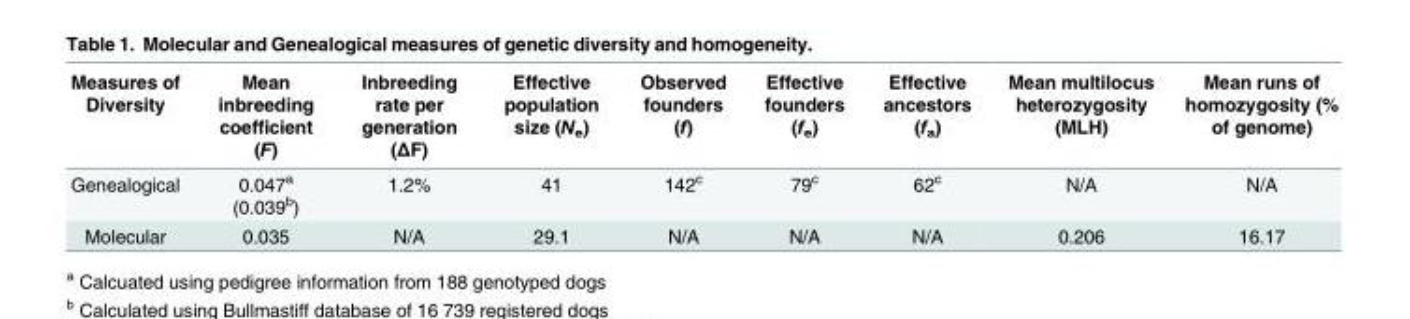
<table><thead><tr><td>Measures of Diversity</td><td>Mean inbreeding coefficient (F)</td><td>Inbreeding rate per generation (ΔF)</td><td>Effective population size (N<sub>e</sub>)</td><td>Observed founders (f)</td><td>Effective founders (f<sub>e</sub>)</td><td>Effective ancestors (f<sub>a</sub>)</td><td>Mean multilocus heterozygosity (MLH)</td><td>Mean runs of homozygosity (% of genome)</td></tr></thead><tbody><tr><td>Genealogical</td><td>0.047<sup>a</sup> (0.039<sup>b</sup>)</td><td>1.2%</td><td>41</td><td>142<sup>c</sup></td><td>79<sup>c</sup></td><td>62<sup>c</sup></td><td>N/A</td><td>N/A</td></tr><tr><td>Molecular</td><td>0.035</td><td>N/A</td><td>29.1</td><td>N/A</td><td>N/A</td><td>N/A</td><td>0.206</td><td>16.17</td></tr></tbody></table>